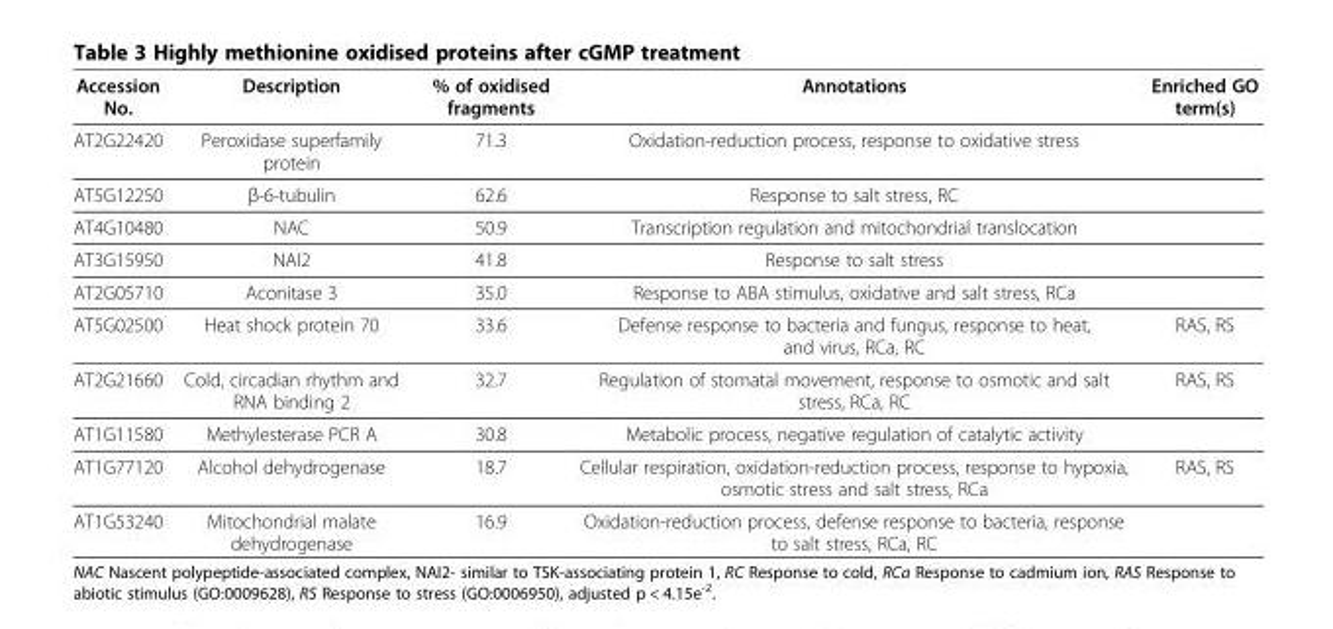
<table><thead><tr><td>Accession No.</td><td>Description</td><td>% of oxidised fragments</td><td>Annotations</td><td>Enriched GO term(s)</td></tr></thead><tbody><tr><td>AT2G22420</td><td>Peroxidase superfamily protein</td><td>71.3</td><td>Oxidation-reduction process, response to oxidative stress</td><td></td></tr><tr><td>AT5G12250</td><td>β-6-tubulin</td><td>62.6</td><td>Response to salt stress, RC</td><td></td></tr><tr><td>AT4G10480</td><td>NAC</td><td>50.9</td><td>Transcription regulation and mitochondrial translocation</td><td></td></tr><tr><td>AT3G15950</td><td>NAI2</td><td>41.8</td><td>Response to salt stress</td><td></td></tr><tr><td>AT2G05710</td><td>Aconitase 3</td><td>35.0</td><td>Response to ABA stimulus, oxidative and salt stress, RCa</td><td></td></tr><tr><td>AT5G02500</td><td>Heat shock protein 70</td><td>33.6</td><td>Defense response to bacteria and fungus, response to heat, and virus, RCa, RC</td><td>RAS, RS</td></tr><tr><td>AT2G21660</td><td>Cold, circadian rhythm and RNA binding 2</td><td>32.7</td><td>Regulation of stomatal movement, response to osmotic and salt stress, RCa, RC</td><td>RAS, RS</td></tr><tr><td>AT1G11580</td><td>Methylesterase PCR A</td><td>30.8</td><td>Metabolic process, negative regulation of catalytic activity</td><td></td></tr><tr><td>AT1G77120</td><td>Alcohol dehydrogenase</td><td>18.7</td><td>Cellular respiration, oxidation-reduction process, response to hypoxia, osmotic stress and salt stress, RCa</td><td>RAS, RS</td></tr><tr><td>AT1G53240</td><td>Mitochondrial malate dehydrogenase</td><td>16.9</td><td>Oxidation-reduction process, defense response to bacteria, response to salt stress, RCa, RC</td><td></td></tr></tbody></table>